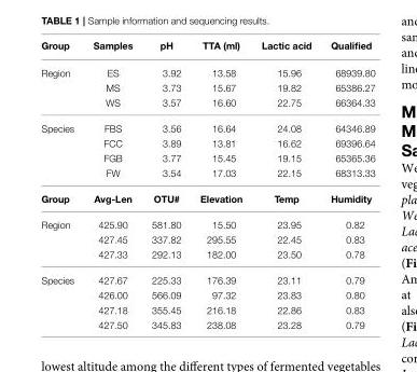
<table><thead><tr><td>Group</td><td>Samples</td><td>pH</td><td>TTA (ml)</td><td>Lactic acid</td><td>Qualified</td></tr></thead><tbody><tr><td rowspan="3">Region</td><td>ES</td><td>3.92</td><td>13.58</td><td>15.96</td><td>68939.80</td></tr><tr><td>MS</td><td>3.73</td><td>15.67</td><td>19.82</td><td>65386.27</td></tr><tr><td>WS</td><td>3.57</td><td>16.60</td><td>22.75</td><td>66364.33</td></tr><tr><td rowspan="4">Species</td><td>FBS</td><td>3.56</td><td>16.64</td><td>24.08</td><td>64346.89</td></tr><tr><td>FCC</td><td>3.89</td><td>13.81</td><td>16.62</td><td>69396.64</td></tr><tr><td>FGB</td><td>3.77</td><td>15.45</td><td>19.15</td><td>65365.36</td></tr><tr><td>FW</td><td>3.54</td><td>17.03</td><td>22.15</td><td>68313.33</td></tr><tr><td>Group</td><td>Avg-Len</td><td>OTU#</td><td>Elevation</td><td>Temp</td><td>Humidity</td></tr><tr><td rowspan="3">Region</td><td>425.90</td><td>581.80</td><td>15.50</td><td>23.95</td><td>0.82</td></tr><tr><td>427.45</td><td>337.82</td><td>295.55</td><td>22.45</td><td>0.83</td></tr><tr><td>427.33</td><td>292.13</td><td>182.00</td><td>23.50</td><td>0.78</td></tr><tr><td rowspan="4">Species</td><td>427.67</td><td>225.33</td><td>176.39</td><td>23.11</td><td>0.79</td></tr><tr><td>426.00</td><td>566.09</td><td>97.32</td><td>23.83</td><td>0.80</td></tr><tr><td>427.18</td><td>355.45</td><td>216.18</td><td>22.86</td><td>0.83</td></tr><tr><td>427.50</td><td>345.83</td><td>238.08</td><td>23.28</td><td>0.79</td></tr></tbody></table>